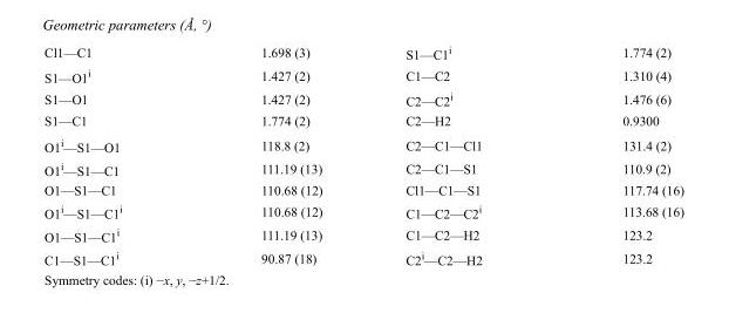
<table><tbody><tr><td>Cl1—C1</td><td>1.698 (3)</td><td>S1—C1<sup>i</sup></td><td>1.774 (2)</td></tr><tr><td>S1—O1<sup>i</sup></td><td>1.427 (2)</td><td>C1—C2</td><td>1.310 (4)</td></tr><tr><td>S1—O1</td><td>1.427 (2)</td><td>C2—C2<sup>i</sup></td><td>1.476 (6)</td></tr><tr><td>S1—C1</td><td>1.774 (2)</td><td>C2—H2</td><td>0.9300</td></tr><tr><td>O1<sup>i</sup>—S1—O1</td><td>118.8 (2)</td><td>C2—C1—Cl1</td><td>131.4 (2)</td></tr><tr><td>O1<sup>i</sup>—S1—C1</td><td>111.19 (13)</td><td>C2—C1—S1</td><td>110.9 (2)</td></tr><tr><td>O1—S1—C1</td><td>110.68 (12)</td><td>Cl1—C1—S1</td><td>117.74 (16)</td></tr><tr><td>O1<sup>i</sup>—S1—C1<sup>i</sup></td><td>110.68 (12)</td><td>C1—C2—C2<sup>i</sup></td><td>113.68 (16)</td></tr><tr><td>O1—S1—C1<sup>i</sup></td><td>111.19 (13)</td><td>C1—C2—H2</td><td>123.2</td></tr><tr><td>C1—S1—C1<sup>i</sup></td><td>90.87 (18)</td><td>C2<sup>i</sup>—C2—H2</td><td>123.2</td></tr></tbody></table>